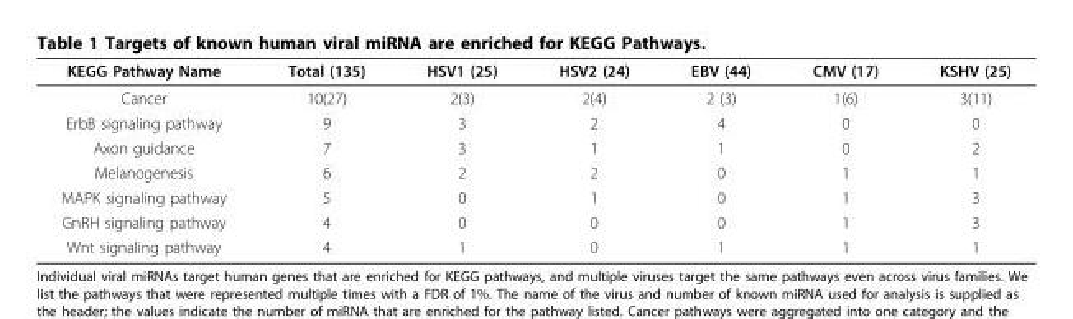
<table><thead><tr><td>KEGG Pathway Name</td><td>Total (135)</td><td>HSV1 (25)</td><td>HSV2 (24)</td><td>EBV (44)</td><td>CMV (17)</td><td>KSHV (25)</td></tr></thead><tbody><tr><td>Cancer</td><td>10(27)</td><td>2(3)</td><td>2(4)</td><td>2 (3)</td><td>1(6)</td><td>3(11)</td></tr><tr><td>ErbB signaling pathway</td><td>9</td><td>3</td><td>2</td><td>4</td><td>0</td><td>0</td></tr><tr><td>Axon guidance</td><td>7</td><td>3</td><td>1</td><td>1</td><td>0</td><td>2</td></tr><tr><td>Melanogenesis</td><td>6</td><td>2</td><td>2</td><td>0</td><td>1</td><td>1</td></tr><tr><td>MAPK signaling pathway</td><td>5</td><td>0</td><td>1</td><td>0</td><td>1</td><td>3</td></tr><tr><td>GnRH signaling pathway</td><td>4</td><td>0</td><td>0</td><td>0</td><td>1</td><td>3</td></tr><tr><td>Wnt signaling pathway</td><td>4</td><td>1</td><td>0</td><td>1</td><td>1</td><td>1</td></tr></tbody></table>